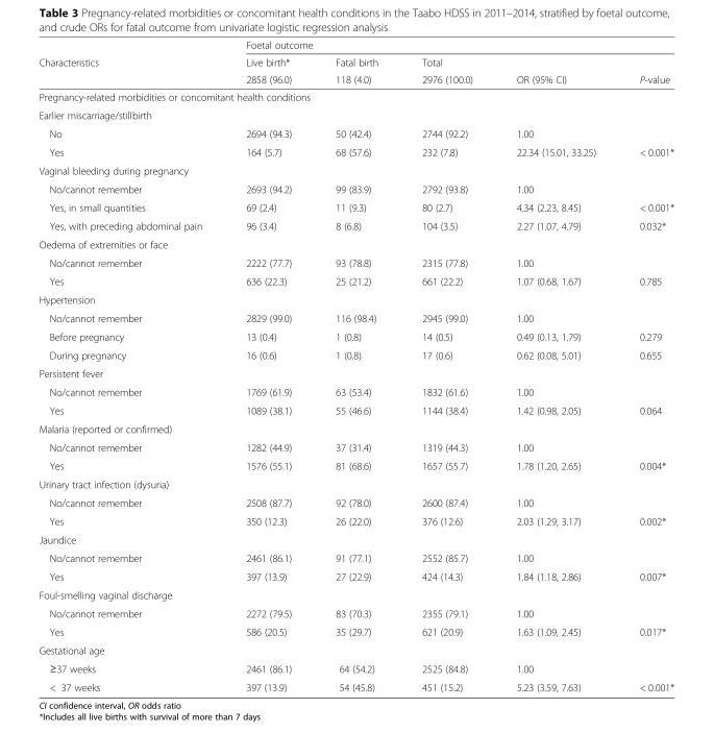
<table><thead><tr><td rowspan="3">Characteristics</td><td colspan="5">Foetal outcome</td></tr><tr><td rowspan="2">Live birth* 2858 (96.0)</td><td rowspan="2">Fatal birth 118 (4.0)</td><td rowspan="2">Total 2976 (100.0)</td><td rowspan="2">OR (95% CI)</td><td rowspan="2">P-value</td></tr><tr></tr></thead><tbody><tr><td colspan="6">Pregnancy-related morbidities or concomitant health conditions</td></tr><tr><td colspan="6">Earlier miscarriage/stillbirth</td></tr><tr><td>No</td><td>2694 (94.3)</td><td>50 (42.4)</td><td>2744 (92.2)</td><td colspan="2">1.00</td></tr><tr><td>Yes</td><td>164 (5.7)</td><td>68 (57.6)</td><td>232 (7.8)</td><td>22.34 (15.01, 33.25)</td><td>&lt; 0.001*</td></tr><tr><td colspan="6">Vaginal bleeding during pregnancy</td></tr><tr><td>No/cannot remember</td><td>2693 (94.2)</td><td>99 (83.9)</td><td>2792 (93.8)</td><td colspan="2">1.00</td></tr><tr><td>Yes, in small quantities</td><td>69 (2.4)</td><td>11 (9.3)</td><td>80 (2.7)</td><td>4.34 (2.23, 8.45)</td><td>&lt; 0.001*</td></tr><tr><td>Yes, with preceding abdominal pain</td><td>96 (3.4)</td><td>8 (6.8)</td><td>104 (3.5)</td><td>2.27 (1.07, 4.79)</td><td>0.032*</td></tr><tr><td colspan="6">Oedema of extremities or face</td></tr><tr><td>No/cannot remember</td><td>2222 (77.7)</td><td>93 (78.8)</td><td>2315 (77.8)</td><td colspan="2">1.00</td></tr><tr><td>Yes</td><td>636 (22.3)</td><td>25 (21.2)</td><td>661 (22.2)</td><td>1.07 (0.68, 1.67)</td><td>0.785</td></tr><tr><td colspan="6">Hypertension</td></tr><tr><td>No/cannot remember</td><td>2829 (99.0)</td><td>116 (98.4)</td><td>2945 (99.0)</td><td colspan="2">1.00</td></tr><tr><td>Before pregnancy</td><td>13 (0.4)</td><td>1 (0.8)</td><td>14 (0.5)</td><td>0.49 (0.13, 1.79)</td><td>0.279</td></tr><tr><td>During pregnancy</td><td>16 (0.6)</td><td>1 (0.8)</td><td>17 (0.6)</td><td>0.62 (0.08, 5.01)</td><td>0.655</td></tr><tr><td colspan="6">Persistent fever</td></tr><tr><td>No/cannot remember</td><td>1769 (61.9)</td><td>63 (53.4)</td><td>1832 (61.6)</td><td colspan="2">1.00</td></tr><tr><td>Yes</td><td>1089 (38.1)</td><td>55 (46.6)</td><td>1144 (38.4)</td><td>1.42 (0.98, 2.05)</td><td>0.064</td></tr><tr><td colspan="6">Malaria (reported or confirmed)</td></tr><tr><td>No/cannot remember</td><td>1282 (44.9)</td><td>37 (31.4)</td><td>1319 (44.3)</td><td colspan="2">1.00</td></tr><tr><td>Yes</td><td>1576 (55.1)</td><td>81 (68.6)</td><td>1657 (55.7)</td><td>1.78 (1.20, 2.65)</td><td>0.004*</td></tr><tr><td colspan="6">Urinary tract infection (dysuria)</td></tr><tr><td>No/cannot remember</td><td>2508 (87.7)</td><td>92 (78.0)</td><td>2600 (87.4)</td><td colspan="2">1.00</td></tr><tr><td>Yes</td><td>350 (12.3)</td><td>26 (22.0)</td><td>376 (12.6)</td><td>2.03 (1.29, 3.17)</td><td>0.002*</td></tr><tr><td colspan="6">Jaundice</td></tr><tr><td>No/cannot remember</td><td>2461 (86.1)</td><td>91 (77.1)</td><td>2552 (85.7)</td><td colspan="2">1.00</td></tr><tr><td>Yes</td><td>397 (13.9)</td><td>27 (22.9)</td><td>424 (14.3)</td><td>1.84 (1.18, 2.86)</td><td>0.007*</td></tr><tr><td colspan="6">Foul-smelling vaginal discharge</td></tr><tr><td>No/cannot remember</td><td>2272 (79.5)</td><td>83 (70.3)</td><td>2355 (79.1)</td><td colspan="2">1.00</td></tr><tr><td>Yes</td><td>586 (20.5)</td><td>35 (29.7)</td><td>621 (20.9)</td><td>1.63 (1.09, 2.45)</td><td>0.017*</td></tr><tr><td colspan="6">Gestational age</td></tr><tr><td>≥37 weeks</td><td>2461 (86.1)</td><td>64 (54.2)</td><td>2525 (84.8)</td><td colspan="2">1.00</td></tr><tr><td>&lt; 37 weeks</td><td>397 (13.9)</td><td>54 (45.8)</td><td>451 (15.2)</td><td>5.23 (3.59, 7.63)</td><td>&lt; 0.001*</td></tr></tbody></table>